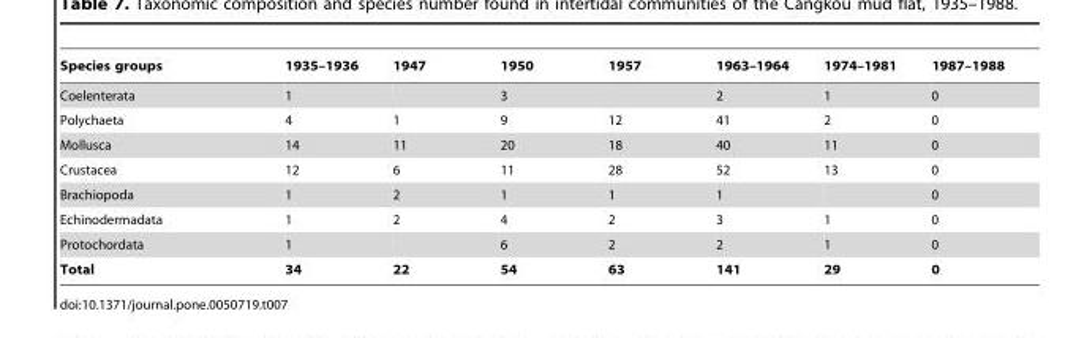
<table><thead><tr><td>Species groups</td><td>1935–1936</td><td>1947</td><td>1950</td><td>1957</td><td>1963–1964</td><td>1974–1981</td><td>1987–1988</td></tr></thead><tbody><tr><td>Coelenterata</td><td>1</td><td></td><td>3</td><td></td><td>2</td><td>1</td><td>0</td></tr><tr><td>Polychaeta</td><td>4</td><td>1</td><td>9</td><td>12</td><td>41</td><td>2</td><td>0</td></tr><tr><td>Mollusca</td><td>14</td><td>11</td><td>20</td><td>18</td><td>40</td><td>11</td><td>0</td></tr><tr><td>Crustacea</td><td>12</td><td>6</td><td>11</td><td>28</td><td>52</td><td>13</td><td>0</td></tr><tr><td>Brachiopoda</td><td>1</td><td>2</td><td>1</td><td>1</td><td>1</td><td></td><td>0</td></tr><tr><td>Echinodermadata</td><td>1</td><td>2</td><td>4</td><td>2</td><td>3</td><td>1</td><td>0</td></tr><tr><td>Protochordata</td><td>1</td><td></td><td>6</td><td>2</td><td>2</td><td>1</td><td>0</td></tr><tr><td>Total</td><td>34</td><td>22</td><td>54</td><td>63</td><td>141</td><td>29</td><td>0</td></tr></tbody></table>